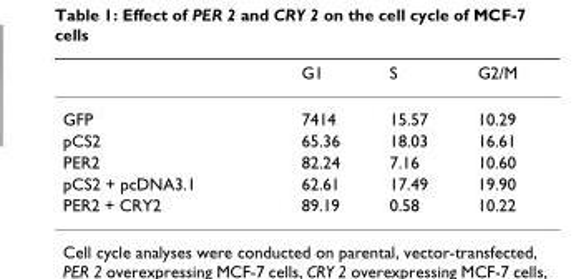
<table><thead><tr><td></td><td>G1</td><td>S</td><td>G2/M</td></tr></thead><tbody><tr><td>GFP</td><td>7414</td><td>15.57</td><td>10.29</td></tr><tr><td>pCS2</td><td>65.36</td><td>18.03</td><td>16.61</td></tr><tr><td>PER2</td><td>82.24</td><td>7.16</td><td>10.60</td></tr><tr><td>pCS2 + pcDNA3.1</td><td>62.61</td><td>17.49</td><td>19.90</td></tr><tr><td>PER2 + CRY2</td><td>89.19</td><td>0.58</td><td>10.22</td></tr></tbody></table>